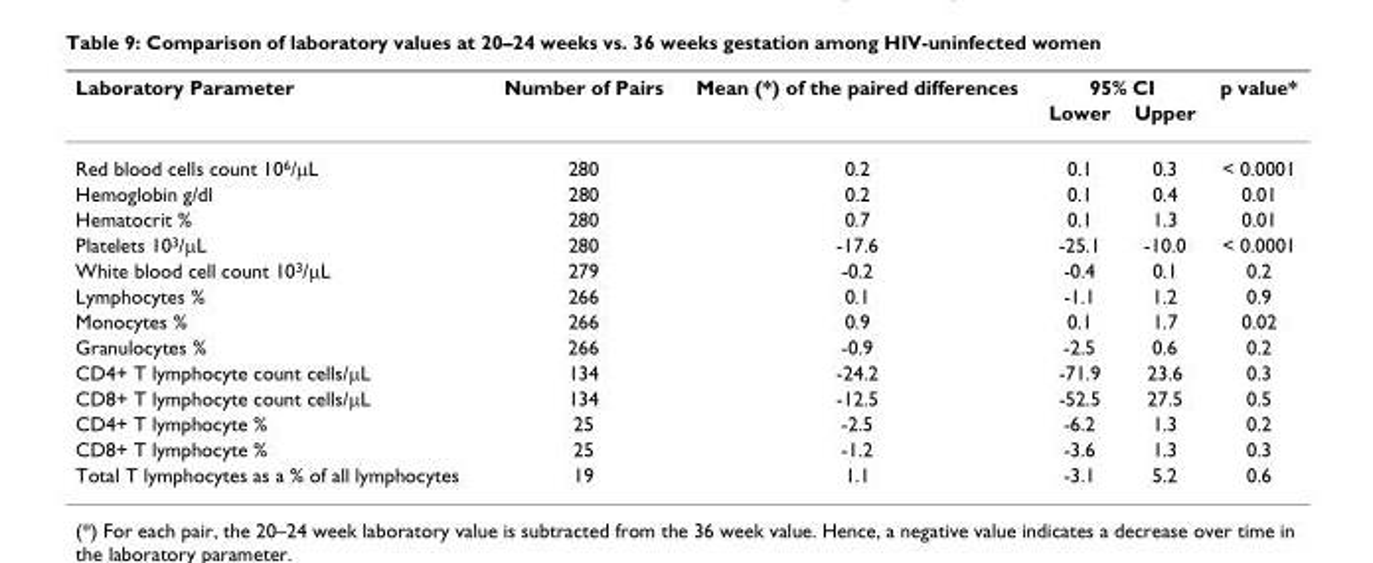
<table><thead><tr><td rowspan="2">Laboratory Parameter</td><td rowspan="2">Number of Pairs</td><td rowspan="2">Mean (*) of the paired differences</td><td colspan="2">95% CI</td><td rowspan="2">p value*</td></tr><tr><td>Lower</td><td>Upper</td></tr></thead><tbody><tr><td>Red blood cells count 10<sup>6</sup>/μL</td><td>280</td><td>0.2</td><td>0.1</td><td>0.3</td><td>&lt; 0.0001</td></tr><tr><td>Hemoglobin g/dl</td><td>280</td><td>0.2</td><td>0.1</td><td>0.4</td><td>0.01</td></tr><tr><td>Hematocrit %</td><td>280</td><td>0.7</td><td>0.1</td><td>1.3</td><td>0.01</td></tr><tr><td>Platelets 10<sup>3</sup>/μL</td><td>280</td><td>-17.6</td><td>-25.1</td><td>-10.0</td><td>&lt; 0.0001</td></tr><tr><td>White blood cell count 10<sup>3</sup>/μL</td><td>279</td><td>-0.2</td><td>-0.4</td><td>0.1</td><td>0.2</td></tr><tr><td>Lymphocytes %</td><td>266</td><td>0.1</td><td>-1.1</td><td>1.2</td><td>0.9</td></tr><tr><td>Monocytes %</td><td>266</td><td>0.9</td><td>0.1</td><td>1.7</td><td>0.02</td></tr><tr><td>Granulocytes %</td><td>266</td><td>-0.9</td><td>-2.5</td><td>0.6</td><td>0.2</td></tr><tr><td>CD4+ T lymphocyte count cells/μL</td><td>134</td><td>-24.2</td><td>-71.9</td><td>23.6</td><td>0.3</td></tr><tr><td>CD8+ T lymphocyte count cells/μL</td><td>134</td><td>-12.5</td><td>-52.5</td><td>27.5</td><td>0.5</td></tr><tr><td>CD4+ T lymphocyte %</td><td>25</td><td>-2.5</td><td>-6.2</td><td>1.3</td><td>0.2</td></tr><tr><td>CD8+ T lymphocyte %</td><td>25</td><td>-1.2</td><td>-3.6</td><td>1.3</td><td>0.3</td></tr><tr><td>Total T lymphocytes as a % of all lymphocytes</td><td>19</td><td>1.1</td><td>-3.1</td><td>5.2</td><td>0.6</td></tr></tbody></table>